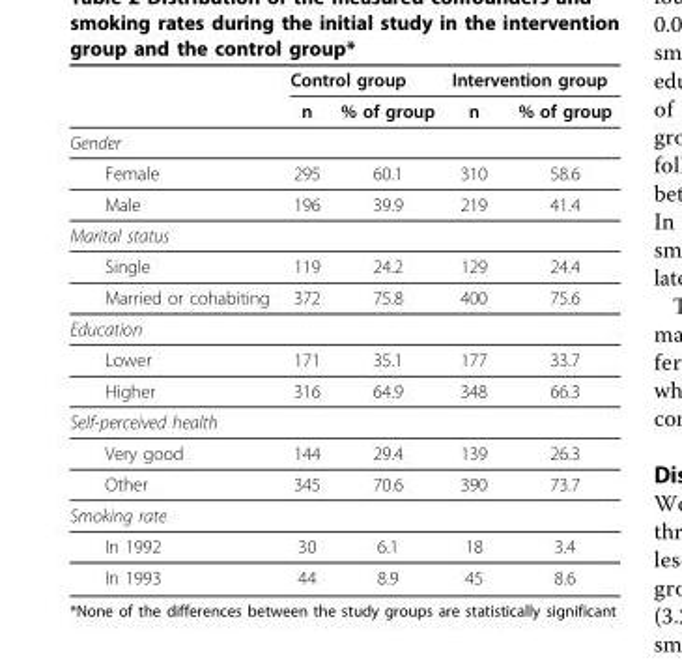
<table><thead><tr><td rowspan="2"></td><td colspan="2">Control group</td><td colspan="2">Intervention group</td></tr><tr><td>n</td><td>% of group</td><td>n</td><td>% of group</td></tr></thead><tbody><tr><td colspan="5">Gender</td></tr><tr><td>Female</td><td>295</td><td>60.1</td><td>310</td><td>58.6</td></tr><tr><td>Male</td><td>196</td><td>39.9</td><td>219</td><td>41.4</td></tr><tr><td colspan="5">Marital status</td></tr><tr><td>Single</td><td>119</td><td>24.2</td><td>129</td><td>24.4</td></tr><tr><td>Married or cohabiting</td><td>372</td><td>75.8</td><td>400</td><td>75.6</td></tr><tr><td colspan="5">Education</td></tr><tr><td>Lower</td><td>171</td><td>35.1</td><td>177</td><td>33.7</td></tr><tr><td>Higher</td><td>316</td><td>64.9</td><td>348</td><td>66.3</td></tr><tr><td colspan="5">Self-perceived health</td></tr><tr><td>Very good</td><td>144</td><td>29.4</td><td>139</td><td>26.3</td></tr><tr><td>Other</td><td>345</td><td>70.6</td><td>390</td><td>73.7</td></tr><tr><td colspan="5">Smoking rate</td></tr><tr><td>In 1992</td><td>30</td><td>6.1</td><td>18</td><td>3.4</td></tr><tr><td>In 1993</td><td>44</td><td>8.9</td><td>45</td><td>8.6</td></tr></tbody></table>